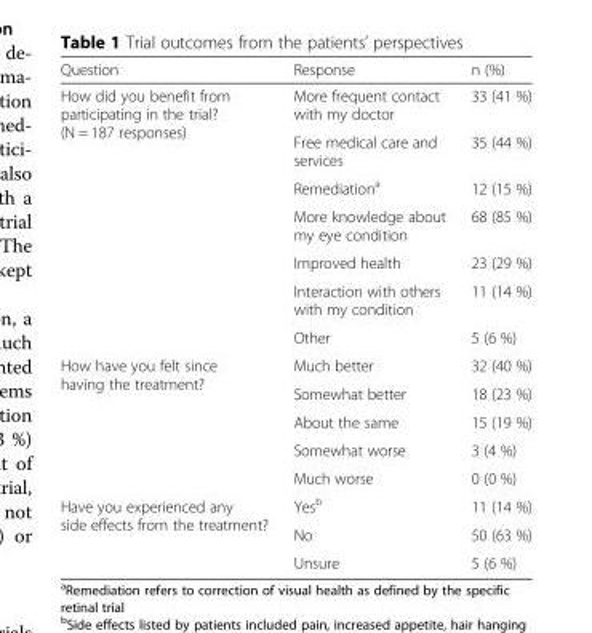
<table><thead><tr><td>Question</td><td>Response</td><td>n (%)</td></tr></thead><tbody><tr><td rowspan="7">How did you benefit from participating in the trial? (N = 187 responses)</td><td>More frequent contact with my doctor</td><td>33 (41 %)</td></tr><tr><td>Free medical care and services</td><td>35 (44 %)</td></tr><tr><td>Remediation<sup>a</sup></td><td>12 (15 %)</td></tr><tr><td>More knowledge about my eye condition</td><td>68 (85 %)</td></tr><tr><td>Improved health</td><td>23 (29 %)</td></tr><tr><td>Interaction with others with my condition</td><td>11 (14 %)</td></tr><tr><td>Other</td><td>5 (6 %)</td></tr><tr><td rowspan="5">How have you felt since having the treatment?</td><td>Much better</td><td>32 (40 %)</td></tr><tr><td>Somewhat better</td><td>18 (23 %)</td></tr><tr><td>About the same</td><td>15 (19 %)</td></tr><tr><td>Somewhat worse</td><td>3 (4 %)</td></tr><tr><td>Much worse</td><td>0 (0 %)</td></tr><tr><td rowspan="3">Have you experienced any side effects from the treatment?</td><td>Yes<sup>b</sup></td><td>11 (14 %)</td></tr><tr><td>No</td><td>50 (63 %)</td></tr><tr><td>Unsure</td><td>5 (6 %)</td></tr></tbody></table>